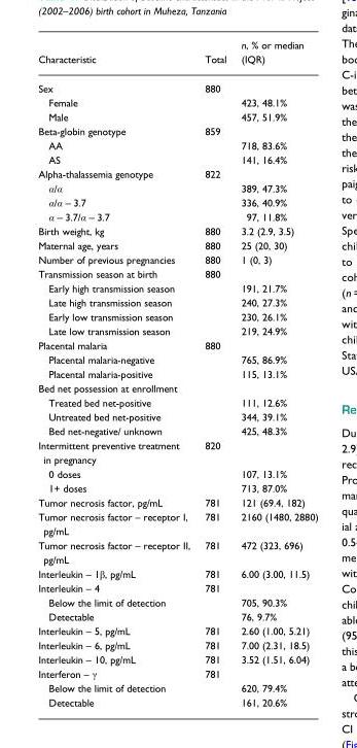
<table><thead><tr><td>Characteristic</td><td>Total</td><td>n, % or median (IQR)</td></tr></thead><tbody><tr><td>Sex</td><td>880</td><td></td></tr><tr><td>Female</td><td></td><td>423, 48.1%</td></tr><tr><td>Male</td><td></td><td>457, 51.9%</td></tr><tr><td>Beta-globin genotype</td><td>859</td><td></td></tr><tr><td>AA</td><td></td><td>718, 83.6%</td></tr><tr><td>AS</td><td></td><td>141, 16.4%</td></tr><tr><td>Alpha-thalassemia genotype</td><td>822</td><td></td></tr><tr><td>α/α</td><td></td><td>389, 47.3%</td></tr><tr><td>α/α − 3.7</td><td></td><td>336, 40.9%</td></tr><tr><td>α − 3.7/α − 3.7</td><td></td><td>97, 11.8%</td></tr><tr><td>Birth weight, kg</td><td>880</td><td>3.2 (2.9, 3.5)</td></tr><tr><td>Maternal age, years</td><td>880</td><td>25 (20, 30)</td></tr><tr><td>Number of previous pregnancies</td><td>880</td><td>1 (0, 3)</td></tr><tr><td>Transmission season at birth</td><td>880</td><td></td></tr><tr><td>Early high transmission season</td><td></td><td>191, 21.7%</td></tr><tr><td>Late high transmission season</td><td></td><td>240, 27.3%</td></tr><tr><td>Early low transmission season</td><td></td><td>230, 26.1%</td></tr><tr><td>Late low transmission season</td><td></td><td>219, 24.9%</td></tr><tr><td>Placental malaria</td><td>880</td><td></td></tr><tr><td>Placental malaria-negative</td><td></td><td>765, 86.9%</td></tr><tr><td>Placental malaria-positive</td><td></td><td>115, 13.1%</td></tr><tr><td colspan="3">Bed net possession at enrollment</td></tr><tr><td>Treated bed net-positive</td><td></td><td>111, 12.6%</td></tr><tr><td>Untreated bed net-positive</td><td></td><td>344, 39.1%</td></tr><tr><td>Bed net-negative/ unknown</td><td></td><td>425, 48.3%</td></tr><tr><td>Intermittent preventive treatment in pregnancy</td><td>820</td><td></td></tr><tr><td>0 doses</td><td></td><td>107, 13.1%</td></tr><tr><td>1+ doses</td><td></td><td>713, 87.0%</td></tr><tr><td>Tumor necrosis factor, pg/mL</td><td>781</td><td>121 (69.4, 182)</td></tr><tr><td>Tumor necrosis factor – receptor I, pg/mL</td><td>781</td><td>2160 (1480, 2880)</td></tr><tr><td>Tumor necrosis factor – receptor II, pg/mL</td><td>781</td><td>472 (323, 696)</td></tr><tr><td>Interleukin – 1β, pg/mL</td><td>781</td><td>6.00 (3.00, 11.5)</td></tr><tr><td>Interleukin – 4</td><td>781</td><td></td></tr><tr><td>Below the limit of detection</td><td></td><td>705, 90.3%</td></tr><tr><td>Detectable</td><td></td><td>76, 9.7%</td></tr><tr><td>Interleukin – 5, pg/mL</td><td>781</td><td>2.60 (1.00, 5.21)</td></tr><tr><td>Interleukin – 6, pg/mL</td><td>781</td><td>7.00 (2.31, 18.5)</td></tr><tr><td>Interleukin – 10, pg/mL</td><td>781</td><td>3.52 (1.51, 6.04)</td></tr><tr><td>Interferon – γ</td><td>781</td><td></td></tr><tr><td>Below the limit of detection</td><td></td><td>620, 79.4%</td></tr><tr><td>Detectable</td><td></td><td>161, 20.6%</td></tr></tbody></table>